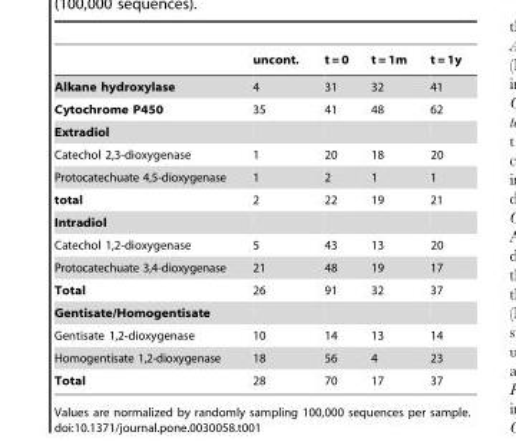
<table><thead><tr><td></td><td>uncont.</td><td>t = 0</td><td>t = 1m</td><td>t = 1y</td></tr></thead><tbody><tr><td>Alkane hydroxylase</td><td>4</td><td>31</td><td>32</td><td>41</td></tr><tr><td>Cytochrome P450</td><td>35</td><td>41</td><td>48</td><td>62</td></tr><tr><td colspan="5">Extradiol</td></tr><tr><td>Catechol 2,3-dioxygenase</td><td>1</td><td>20</td><td>18</td><td>20</td></tr><tr><td>Protocatechuate 4,5-dioxygenase</td><td>1</td><td>2</td><td>1</td><td>1</td></tr><tr><td>total</td><td>2</td><td>22</td><td>19</td><td>21</td></tr><tr><td colspan="5">Intradiol</td></tr><tr><td>Catechol 1,2-dioxygenase</td><td>5</td><td>43</td><td>13</td><td>20</td></tr><tr><td>Protocatechuate 3,4-dioxygenase</td><td>21</td><td>48</td><td>19</td><td>17</td></tr><tr><td>Total</td><td>26</td><td>91</td><td>32</td><td>37</td></tr><tr><td colspan="5">Gentisate/Homogentisate</td></tr><tr><td>Gentisate 1,2-dioxygenase</td><td>10</td><td>14</td><td>13</td><td>14</td></tr><tr><td>Homogentisate 1,2-dioxygenase</td><td>18</td><td>56</td><td>4</td><td>23</td></tr><tr><td>Total</td><td>28</td><td>70</td><td>17</td><td>37</td></tr></tbody></table>